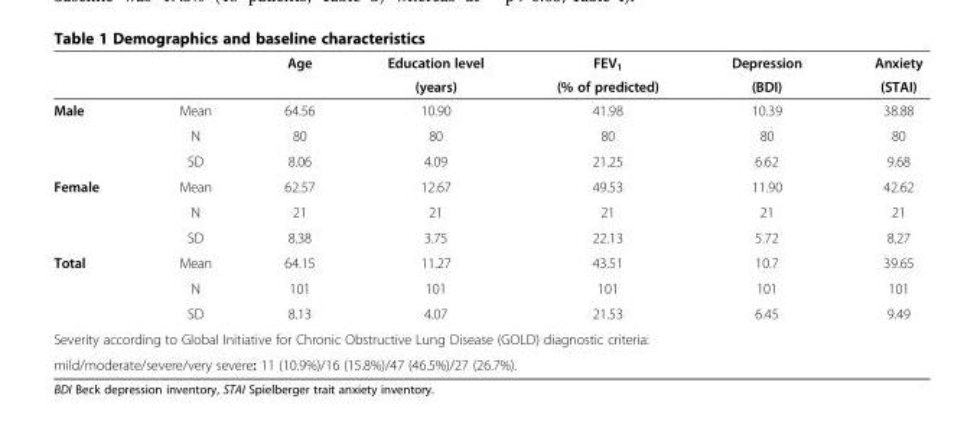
<table><thead><tr><td rowspan="2"></td><td rowspan="2"></td><td rowspan="2">Age</td><td rowspan="2">Education level (years)</td><td rowspan="2">FEV<sub>1</sub> (% of predicted)</td><td rowspan="2">Depression (BDI)</td><td rowspan="2">Anxiety (STAI)</td></tr><tr></tr></thead><tbody><tr><td rowspan="3">Male</td><td>Mean</td><td>64.56</td><td>10.90</td><td>41.98</td><td>10.39</td><td>38.88</td></tr><tr><td>N</td><td>80</td><td>80</td><td>80</td><td>80</td><td>80</td></tr><tr><td>SD</td><td>8.06</td><td>4.09</td><td>21.25</td><td>6.62</td><td>9.68</td></tr><tr><td rowspan="3">Female</td><td>Mean</td><td>62.57</td><td>12.67</td><td>49.53</td><td>11.90</td><td>42.62</td></tr><tr><td>N</td><td>21</td><td>21</td><td>21</td><td>21</td><td>21</td></tr><tr><td>SD</td><td>8.38</td><td>3.75</td><td>22.13</td><td>5.72</td><td>8.27</td></tr><tr><td rowspan="3">Total</td><td>Mean</td><td>64.15</td><td>11.27</td><td>43.51</td><td>10.7</td><td>39.65</td></tr><tr><td>N</td><td>101</td><td>101</td><td>101</td><td>101</td><td>101</td></tr><tr><td>SD</td><td>8.13</td><td>4.07</td><td>21.53</td><td>6.45</td><td>9.49</td></tr><tr><td colspan="7">Severity according to Global Initiative for Chronic Obstructive Lung Disease (GOLD) diagnostic criteria:</td></tr><tr><td colspan="7">mild/moderate/severe/very severe: 11 (10.9%)/16 (15.8%)/47 (46.5%)/27 (26.7%).</td></tr></tbody></table>